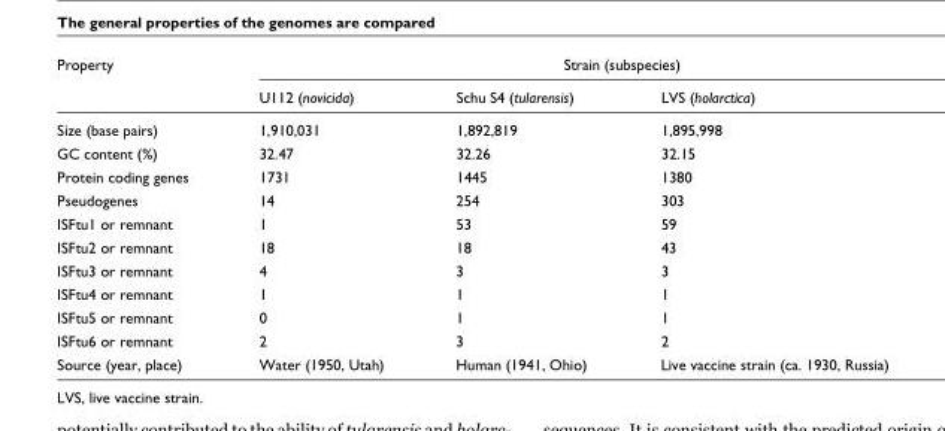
<table><thead><tr><td rowspan="2">Property</td><td colspan="3">Strain (subspecies)</td></tr><tr><td>U112 (novicida)</td><td>Schu S4 (tularensis)</td><td>LVS (holarctica)</td></tr></thead><tbody><tr><td>Size (base pairs)</td><td>1,910,031</td><td>1,892,819</td><td>1,895,998</td></tr><tr><td>GC content (%)</td><td>32.47</td><td>32.26</td><td>32.15</td></tr><tr><td>Protein coding genes</td><td>1731</td><td>1445</td><td>1380</td></tr><tr><td>Pseudogenes</td><td>14</td><td>254</td><td>303</td></tr><tr><td>ISFtu1 or remnant</td><td>1</td><td>53</td><td>59</td></tr><tr><td>ISFtu2 or remnant</td><td>18</td><td>18</td><td>43</td></tr><tr><td>ISFtu3 or remnant</td><td>4</td><td>3</td><td>3</td></tr><tr><td>ISFtu4 or remnant</td><td>1</td><td>1</td><td>1</td></tr><tr><td>ISFtu5 or remnant</td><td>0</td><td>1</td><td>1</td></tr><tr><td>ISFtu6 or remnant</td><td>2</td><td>3</td><td>2</td></tr><tr><td>Source (year, place)</td><td>Water (1950, Utah)</td><td>Human (1941, Ohio)</td><td>Live vaccine strain (ca. 1930, Russia)</td></tr></tbody></table>